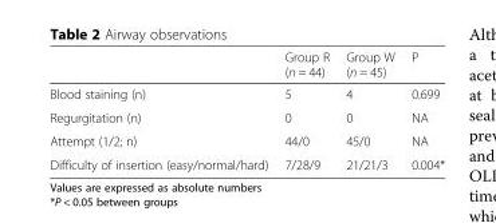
<table><thead><tr><td></td><td>Group R (n = 44)</td><td>Group W (n = 45)</td><td>P</td></tr></thead><tbody><tr><td>Blood staining (n)</td><td>5</td><td>4</td><td>0.699</td></tr><tr><td>Regurgitation (n)</td><td>0</td><td>0</td><td>NA</td></tr><tr><td>Attempt (1/2; n)</td><td>44/0</td><td>45/0</td><td>NA</td></tr><tr><td>Difficulty of insertion (easy/normal/hard)</td><td>7/28/9</td><td>21/21/3</td><td>0.004*</td></tr></tbody></table>